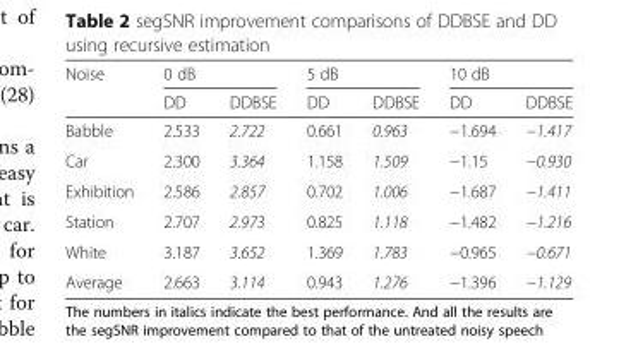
<table><thead><tr><td rowspan="2">Noise</td><td colspan="2">0 dB</td><td colspan="2">5 dB</td><td colspan="2">10 dB</td></tr><tr><td>DD</td><td>DDBSE</td><td>DD</td><td>DDBSE</td><td>DD</td><td>DDBSE</td></tr></thead><tbody><tr><td>Babble</td><td>2.533</td><td>2.722</td><td>0.661</td><td>0.963</td><td>−1.694</td><td>−1.417</td></tr><tr><td>Car</td><td>2.300</td><td>3.364</td><td>1.158</td><td>1.509</td><td>−1.15</td><td>−0.930</td></tr><tr><td>Exhibition</td><td>2.586</td><td>2.857</td><td>0.702</td><td>1.006</td><td>−1.687</td><td>−1.411</td></tr><tr><td>Station</td><td>2.707</td><td>2.973</td><td>0.825</td><td>1.118</td><td>−1.482</td><td>−1.216</td></tr><tr><td>White</td><td>3.187</td><td>3.652</td><td>1.369</td><td>1.783</td><td>−0.965</td><td>−0.671</td></tr><tr><td>Average</td><td>2.663</td><td>3.114</td><td>0.943</td><td>1.276</td><td>−1.396</td><td>−1.129</td></tr></tbody></table>